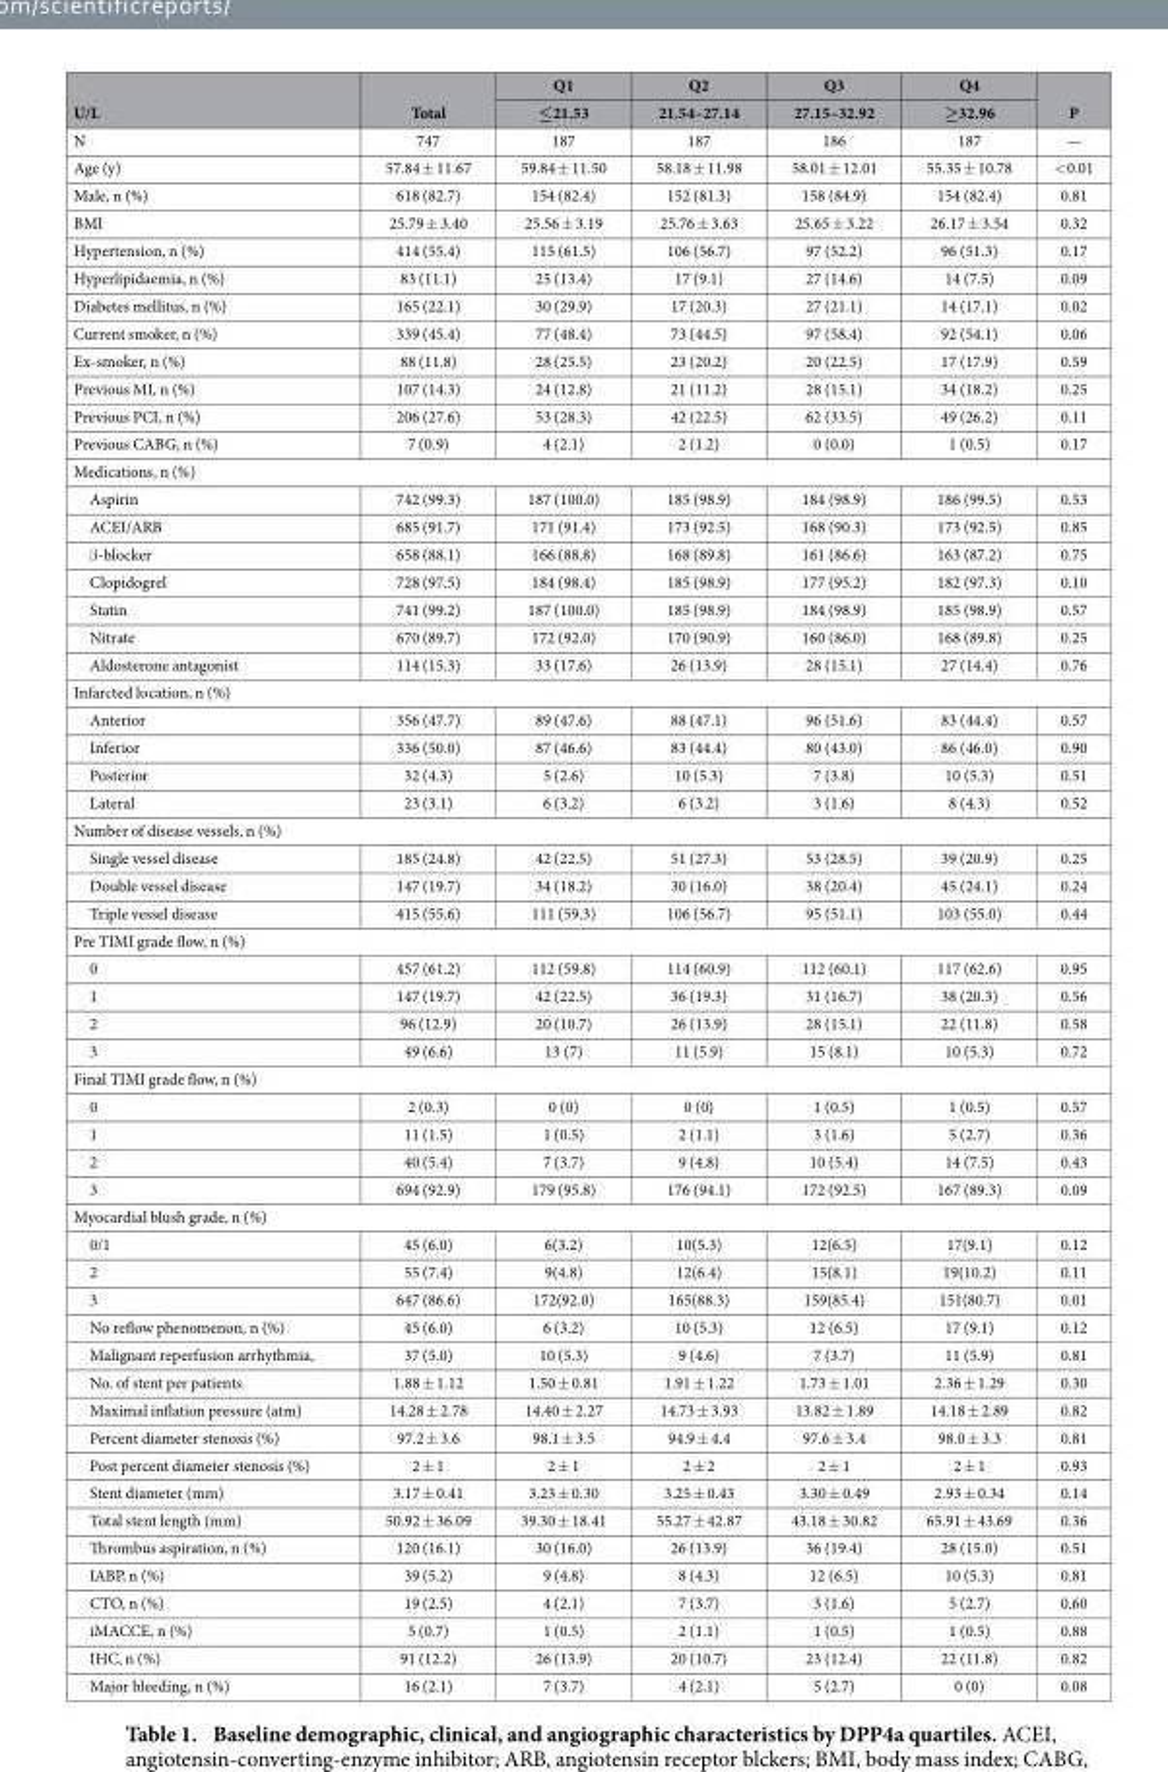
<table><thead><tr><td rowspan="2">U/L</td><td rowspan="2">Total</td><td rowspan="2">Q1 ≤21.53</td><td rowspan="2">Q2 21.54–27.14</td><td rowspan="2">Q3 27.15–32.92</td><td rowspan="2">Q4 ≥32.96</td><td rowspan="2">P</td></tr><tr></tr></thead><tbody><tr><td>N</td><td>747</td><td>187</td><td>187</td><td>186</td><td>187</td><td>—</td></tr><tr><td>Age (y)</td><td>57.84 ± 11.67</td><td>59.84 ± 11.50</td><td>58.18 ± 11.98</td><td>58.01 ± 12.01</td><td>55.35 ± 10.78</td><td>&lt; 0.01</td></tr><tr><td>Male, n (%)</td><td>618 (82.7)</td><td>154 (82.4)</td><td>152 (81.3)</td><td>158 (84.9)</td><td>154 (82.4)</td><td>0.81</td></tr><tr><td>BMI</td><td>25.79 ± 3.40</td><td>25.56 ± 3.19</td><td>25.76 ± 3.63</td><td>25.65 ± 3.22</td><td>26.17 ± 3.54</td><td>0.32</td></tr><tr><td>Hypertension, n (%)</td><td>414 (55.4)</td><td>115 (61.5)</td><td>106 (56.7)</td><td>97 (52.2)</td><td>96 (51.3)</td><td>0.17</td></tr><tr><td>Hyperlipidaemia, n (%)</td><td>83 (11.1)</td><td>25 (13.4)</td><td>17 (9.1)</td><td>27 (14.6)</td><td>14 (7.5)</td><td>0.09</td></tr><tr><td>Diabetes mellitus, n (%)</td><td>165 (22.1)</td><td>30 (29.9)</td><td>17 (20.3)</td><td>27 (21.1)</td><td>14 (17.1)</td><td>0.02</td></tr><tr><td>Current smoker, n (%)</td><td>339 (45.4)</td><td>77 (48.4)</td><td>73 (44.5)</td><td>97 (58.4)</td><td>92 (54.1)</td><td>0.06</td></tr><tr><td>Ex-smoker, n (%)</td><td>88 (11.8)</td><td>28 (25.5)</td><td>23 (20.2)</td><td>20 (22.5)</td><td>17 (17.9)</td><td>0.59</td></tr><tr><td>Previous MI, n (%)</td><td>107 (14.3)</td><td>24 (12.8)</td><td>21 (11.2)</td><td>28 (15.1)</td><td>34 (18.2)</td><td>0.25</td></tr><tr><td>Previous PCI, n (%)</td><td>206 (27.6)</td><td>53 (28.3)</td><td>42 (22.5)</td><td>62 (33.5)</td><td>49 (26.2)</td><td>0.11</td></tr><tr><td>Previous CABG, n (%)</td><td>7 (0.9)</td><td>4 (2.1)</td><td>2 (1.2)</td><td>0 (0.0)</td><td>1 (0.5)</td><td>0.17</td></tr><tr><td colspan="7">Medications, n (%)</td></tr><tr><td>Aspirin</td><td>742 (99.3)</td><td>187 (100.0)</td><td>185 (98.9)</td><td>184 (98.9)</td><td>186 (99.5)</td><td>0.53</td></tr><tr><td>ACEI/ARB</td><td>685 (91.7)</td><td>171 (91.4)</td><td>173 (92.5)</td><td>168 (90.3)</td><td>173 (92.5)</td><td>0.85</td></tr><tr><td>β -blocker</td><td>658 (88.1)</td><td>166 (88.8)</td><td>168 (89.8)</td><td>161 (86.6)</td><td>163 (87.2)</td><td>0.75</td></tr><tr><td>Clopidogrel</td><td>728 (97.5)</td><td>184 (98.4)</td><td>185 (98.9)</td><td>177 (95.2)</td><td>182 (97.3)</td><td>0.10</td></tr><tr><td>Statin</td><td>741 (99.2)</td><td>187 (100.0)</td><td>185 (98.9)</td><td>184 (98.9)</td><td>185 (98.9)</td><td>0.57</td></tr><tr><td>Nitrate</td><td>670 (89.7)</td><td>172 (92.0)</td><td>170 (90.9)</td><td>160 (86.0)</td><td>168 (89.8)</td><td>0.25</td></tr><tr><td>Aldosterone antagonist</td><td>114 (15.3)</td><td>33 (17.6)</td><td>26 (13.9)</td><td>28 (15.1)</td><td>27 (14.4)</td><td>0.76</td></tr><tr><td colspan="7">Infarcted location, n (%)</td></tr><tr><td>Anterior</td><td>356 (47.7)</td><td>89 (47.6)</td><td>88 (47.1)</td><td>96 (51.6)</td><td>83 (44.4)</td><td>0.57</td></tr><tr><td>Inferior</td><td>336 (50.0)</td><td>87 (46.6)</td><td>83 (44.4)</td><td>80 (43.0)</td><td>86 (46.0)</td><td>0.90</td></tr><tr><td>Posterior</td><td>32 (4.3)</td><td>5 (2.6)</td><td>10 (5.3)</td><td>7 (3.8)</td><td>10 (5.3)</td><td>0.51</td></tr><tr><td>Lateral</td><td>23 (3.1)</td><td>6 (3.2)</td><td>6 (3.2)</td><td>3 (1.6)</td><td>8 (4.3)</td><td>0.52</td></tr><tr><td colspan="7">Number of disease vessels, n (%)</td></tr><tr><td>Single vessel disease</td><td>185 (24.8)</td><td>42 (22.5)</td><td>51 (27.3)</td><td>53 (28.5)</td><td>39 (20.9)</td><td>0.25</td></tr><tr><td>Double vessel disease</td><td>147 (19.7)</td><td>34 (18.2)</td><td>30 (16.0)</td><td>38 (20.4)</td><td>45 (24.1)</td><td>0.24</td></tr><tr><td>Triple vessel disease</td><td>415 (55.6)</td><td>111 (59.3)</td><td>106 (56.7)</td><td>95 (51.1)</td><td>103 (55.0)</td><td>0.44</td></tr><tr><td colspan="7">Pre TIMI grade flow, n (%)</td></tr><tr><td>0</td><td>457 (61.2)</td><td>112 (59.8)</td><td>114 (60.9)</td><td>112 (60.1)</td><td>117 (62.6)</td><td>0.95</td></tr><tr><td>1</td><td>147 (19.7)</td><td>42 (22.5)</td><td>36 (19.3)</td><td>31 (16.7)</td><td>38 (20.3)</td><td>0.56</td></tr><tr><td>2</td><td>96 (12.9)</td><td>20 (10.7)</td><td>26 (13.9)</td><td>28 (15.1)</td><td>22 (11.8)</td><td>0.58</td></tr><tr><td>3</td><td>49 (6.6)</td><td>13 (7)</td><td>11 (5.9)</td><td>15 (8.1)</td><td>10 (5.3)</td><td>0.72</td></tr><tr><td colspan="7">Final TIMI grade flow, n (%)</td></tr><tr><td>0</td><td>2 (0.3)</td><td>0 (0)</td><td>0 (0)</td><td>1 (0.5)</td><td>1 (0.5)</td><td>0.57</td></tr><tr><td>1</td><td>11 (1.5)</td><td>1 (0.5)</td><td>2 (1.1)</td><td>3 (1.6)</td><td>5 (2.7)</td><td>0.36</td></tr><tr><td>2</td><td>40 (5.4)</td><td>7 (3.7)</td><td>9 (4.8)</td><td>10 (5.4)</td><td>14 (7.5)</td><td>0.43</td></tr><tr><td>3</td><td>694 (92.9)</td><td>179 (95.8)</td><td>176 (94.1)</td><td>172 (92.5)</td><td>167 (89.3)</td><td>0.09</td></tr><tr><td colspan="7">Myocardial blush grade, n (%)</td></tr><tr><td>0/1</td><td>45 (6.0)</td><td>6(3.2)</td><td>10(5.3)</td><td>12(6.5)</td><td>17(9.1)</td><td>0.12</td></tr><tr><td>2</td><td>55 (7.4)</td><td>9(4.8)</td><td>12(6.4)</td><td>15(8.1)</td><td>19(10.2)</td><td>0.11</td></tr><tr><td>3</td><td>647 (86.6)</td><td>172(92.0)</td><td>165(88.3)</td><td>159(85.4)</td><td>151(80.7)</td><td>0.01</td></tr><tr><td>No reflow phenomenon, n (%)</td><td>45 (6.0)</td><td>6 (3.2)</td><td>10 (5.3)</td><td>12 (6.5)</td><td>17 (9.1)</td><td>0.12</td></tr><tr><td>Malignant reperfusion arrhythmia,</td><td>37 (5.0)</td><td>10 (5.3)</td><td>9 (4.6)</td><td>7 (3.7)</td><td>11 (5.9)</td><td>0.81</td></tr><tr><td>No. of stent per patients</td><td>1.88 ± 1.12</td><td>1.50 ± 0.81</td><td>1.91 ± 1.22</td><td>1.73 ± 1.01</td><td>2.36 ± 1.29</td><td>0.30</td></tr><tr><td>Maximal inflation pressure (atm)</td><td>14.28 ± 2.78</td><td>14.40 ± 2.27</td><td>14.73 ± 3.93</td><td>13.82 ± 1.89</td><td>14.18 ± 2.89</td><td>0.82</td></tr><tr><td>Percent diameter stenosis (%)</td><td>97.2 ± 3.6</td><td>98.1 ± 3.5</td><td>94.9 ± 4.4</td><td>97.6 ± 3.4</td><td>98.0 ± 3.3</td><td>0.81</td></tr><tr><td>Post percent diameter stenosis (%)</td><td>2 ± 1</td><td>2 ± 1</td><td>2 ± 2</td><td>2 ± 1</td><td>2 ± 1</td><td>0.93</td></tr><tr><td>Stent diameter (mm)</td><td>3.17 ± 0.41</td><td>3.23 ± 0.30</td><td>3.25 ± 0.43</td><td>3.30 ± 0.49</td><td>2.93 ± 0.34</td><td>0.14</td></tr><tr><td>Total stent length (mm)</td><td>50.92 ± 36.09</td><td>39.30 ± 18.41</td><td>55.27 ± 42.87</td><td>43.18 ± 30.82</td><td>65.91 ± 43.69</td><td>0.36</td></tr><tr><td>Thrombus aspiration, n (%)</td><td>120 (16.1)</td><td>30 (16.0)</td><td>26 (13.9)</td><td>36 (19.4)</td><td>28 (15.0)</td><td>0.51</td></tr><tr><td>IABP, n (%)</td><td>39 (5.2)</td><td>9 (4.8)</td><td>8 (4.3)</td><td>12 (6.5)</td><td>10 (5.3)</td><td>0.81</td></tr><tr><td>CTO, n (%)</td><td>19 (2.5)</td><td>4 (2.1)</td><td>7 (3.7)</td><td>3 (1.6)</td><td>5 (2.7)</td><td>0.60</td></tr><tr><td>iMACCE, n (%)</td><td>5 (0.7)</td><td>1 (0.5)</td><td>2 (1.1)</td><td>1 (0.5)</td><td>1 (0.5)</td><td>0.88</td></tr><tr><td>IHC, n (%)</td><td>91 (12.2)</td><td>26 (13.9)</td><td>20 (10.7)</td><td>23 (12.4)</td><td>22 (11.8)</td><td>0.82</td></tr><tr><td>Major bleeding, n (%)</td><td>16 (2.1)</td><td>7 (3.7)</td><td>4 (2.1)</td><td>5 (2.7)</td><td>0 (0)</td><td>0.08</td></tr></tbody></table>